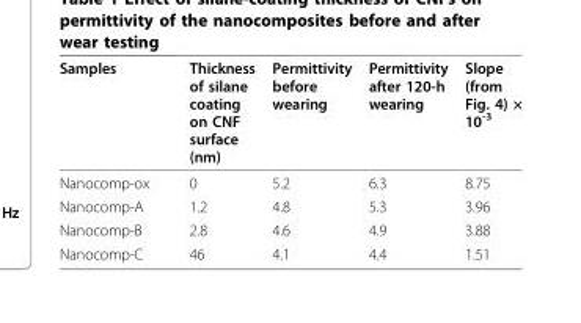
<table><thead><tr><td>Samples</td><td>Thickness of silane coating on CNF surface (nm)</td><td>Permittivity before wearing</td><td>Permittivity after 120-h wearing</td><td>Slope (from Fig. 4) × 10<sup>-3</sup></td></tr></thead><tbody><tr><td>Nanocomp-ox</td><td>0</td><td>5.2</td><td>6.3</td><td>8.75</td></tr><tr><td>Nanocomp-A</td><td>1.2</td><td>4.8</td><td>5.3</td><td>3.96</td></tr><tr><td>Nanocomp-B</td><td>2.8</td><td>4.6</td><td>4.9</td><td>3.88</td></tr><tr><td>Nanocomp-C</td><td>46</td><td>4.1</td><td>4.4</td><td>1.51</td></tr></tbody></table>